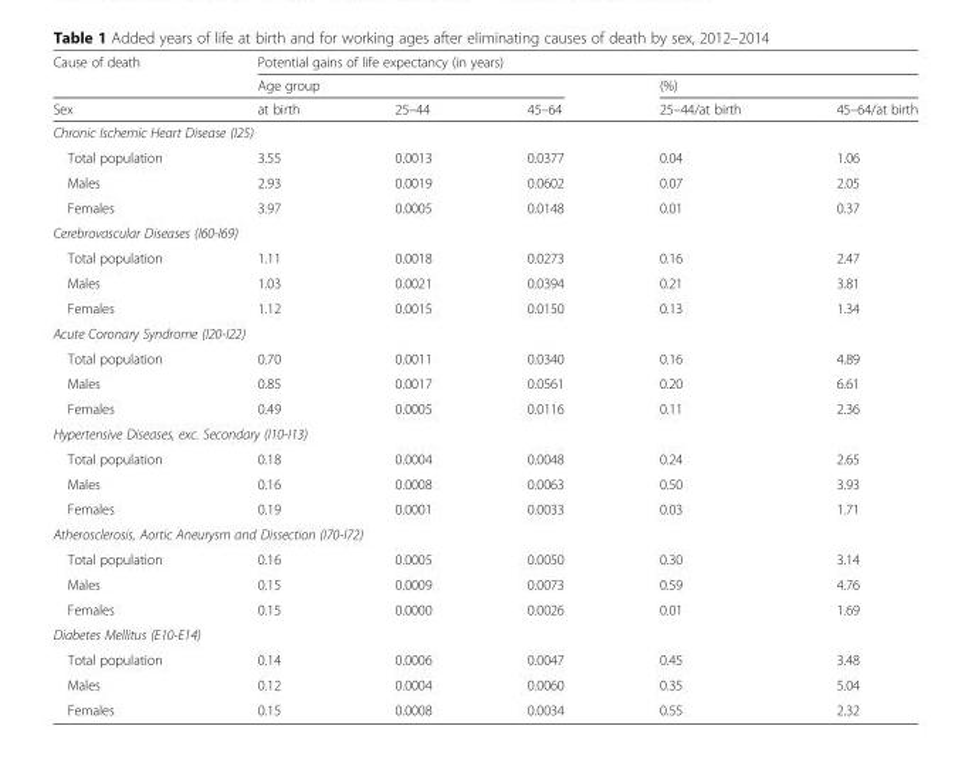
<table><thead><tr><td rowspan="3">Cause of death Sex</td><td colspan="5">Potential gains of life expectancy (in years)</td></tr><tr><td colspan="3">Age group</td><td colspan="2">(%)</td></tr><tr><td>at birth</td><td>25–44</td><td>45–64</td><td>25–44/at birth</td><td>45–64/at birth</td></tr></thead><tbody><tr><td colspan="6">Chronic Ischemic Heart Disease (I25)</td></tr><tr><td>Total population</td><td>3.55</td><td>0.0013</td><td>0.0377</td><td>0.04</td><td>1.06</td></tr><tr><td>Males</td><td>2.93</td><td>0.0019</td><td>0.0602</td><td>0.07</td><td>2.05</td></tr><tr><td>Females</td><td>3.97</td><td>0.0005</td><td>0.0148</td><td>0.01</td><td>0.37</td></tr><tr><td colspan="6">Cerebrovascular Diseases (I60-I69)</td></tr><tr><td>Total population</td><td>1.11</td><td>0.0018</td><td>0.0273</td><td>0.16</td><td>2.47</td></tr><tr><td>Males</td><td>1.03</td><td>0.0021</td><td>0.0394</td><td>0.21</td><td>3.81</td></tr><tr><td>Females</td><td>1.12</td><td>0.0015</td><td>0.0150</td><td>0.13</td><td>1.34</td></tr><tr><td colspan="6">Acute Coronary Syndrome (I20-I22)</td></tr><tr><td>Total population</td><td>0.70</td><td>0.0011</td><td>0.0340</td><td>0.16</td><td>4.89</td></tr><tr><td>Males</td><td>0.85</td><td>0.0017</td><td>0.0561</td><td>0.20</td><td>6.61</td></tr><tr><td>Females</td><td>0.49</td><td>0.0005</td><td>0.0116</td><td>0.11</td><td>2.36</td></tr><tr><td colspan="6">Hypertensive Diseases, exc. Secondary (I10-I13)</td></tr><tr><td>Total population</td><td>0.18</td><td>0.0004</td><td>0.0048</td><td>0.24</td><td>2.65</td></tr><tr><td>Males</td><td>0.16</td><td>0.0008</td><td>0.0063</td><td>0.50</td><td>3.93</td></tr><tr><td>Females</td><td>0.19</td><td>0.0001</td><td>0.0033</td><td>0.03</td><td>1.71</td></tr><tr><td colspan="6">Atherosclerosis, Aortic Aneurysm and Dissection (I70-I72)</td></tr><tr><td>Total population</td><td>0.16</td><td>0.0005</td><td>0.0050</td><td>0.30</td><td>3.14</td></tr><tr><td>Males</td><td>0.15</td><td>0.0009</td><td>0.0073</td><td>0.59</td><td>4.76</td></tr><tr><td>Females</td><td>0.15</td><td>0.0000</td><td>0.0026</td><td>0.01</td><td>1.69</td></tr><tr><td colspan="6">Diabetes Mellitus (E10-E14)</td></tr><tr><td>Total population</td><td>0.14</td><td>0.0006</td><td>0.0047</td><td>0.45</td><td>3.48</td></tr><tr><td>Males</td><td>0.12</td><td>0.0004</td><td>0.0060</td><td>0.35</td><td>5.04</td></tr><tr><td>Females</td><td>0.15</td><td>0.0008</td><td>0.0034</td><td>0.55</td><td>2.32</td></tr></tbody></table>